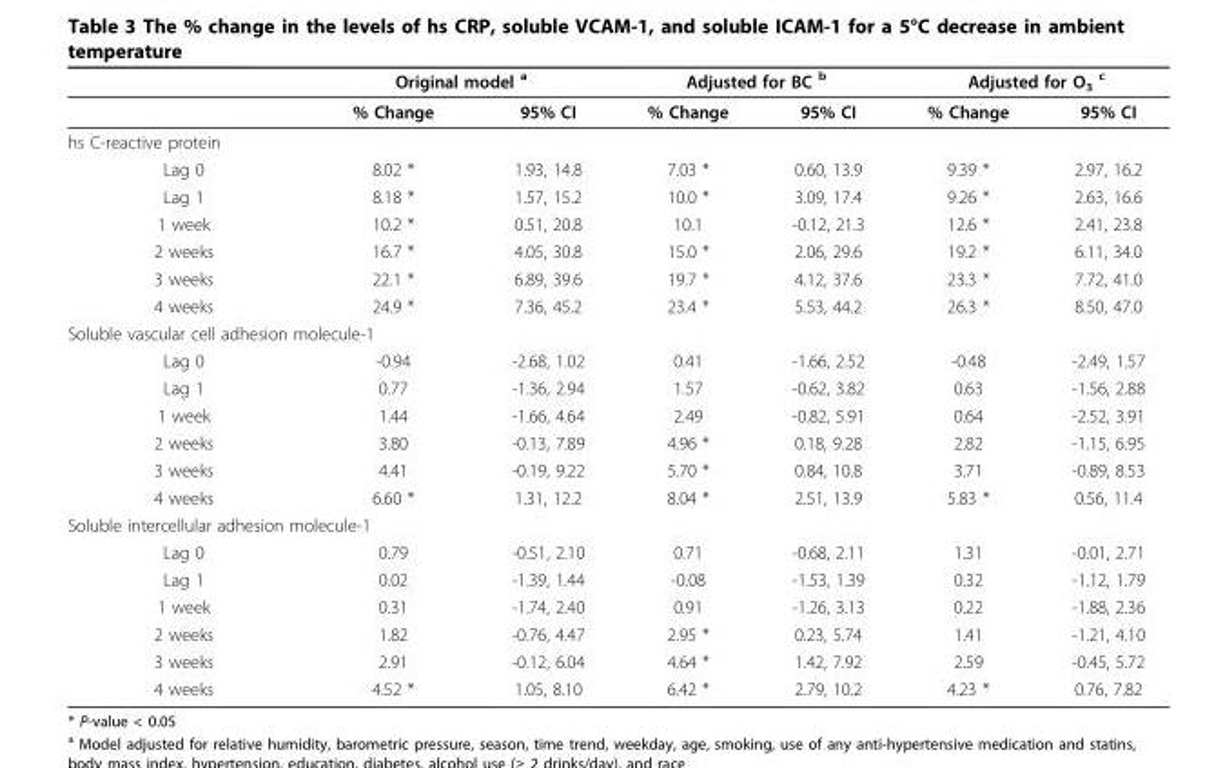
<table><thead><tr><td rowspan="2"></td><td colspan="2">Original model <sup>a</sup></td><td colspan="2">Adjusted for BC <sup>b</sup></td><td colspan="2">Adjusted for O<sub>3</sub> <sup>c</sup></td></tr><tr><td>% Change</td><td>95% CI</td><td>% Change</td><td>95% CI</td><td>% Change</td><td>95% CI</td></tr></thead><tbody><tr><td colspan="7">hs C-reactive protein</td></tr><tr><td>Lag 0</td><td>8.02 *</td><td>1.93, 14.8</td><td>7.03 *</td><td>0.60, 13.9</td><td>9.39 *</td><td>2.97, 16.2</td></tr><tr><td>Lag 1</td><td>8.18 *</td><td>1.57, 15.2</td><td>10.0 *</td><td>3.09, 17.4</td><td>9.26 *</td><td>2.63, 16.6</td></tr><tr><td>1 week</td><td>10.2 *</td><td>0.51, 20.8</td><td>10.1</td><td>-0.12, 21.3</td><td>12.6 *</td><td>2.41, 23.8</td></tr><tr><td>2 weeks</td><td>16.7 *</td><td>4.05, 30.8</td><td>15.0 *</td><td>2.06, 29.6</td><td>19.2 *</td><td>6.11, 34.0</td></tr><tr><td>3 weeks</td><td>22.1 *</td><td>6.89, 39.6</td><td>19.7 *</td><td>4.12, 37.6</td><td>23.3 *</td><td>7.72, 41.0</td></tr><tr><td>4 weeks</td><td>24.9 *</td><td>7.36, 45.2</td><td>23.4 *</td><td>5.53, 44.2</td><td>26.3 *</td><td>8.50, 47.0</td></tr><tr><td colspan="7">Soluble vascular cell adhesion molecule-1</td></tr><tr><td>Lag 0</td><td>-0.94</td><td>-2.68, 1.02</td><td>0.41</td><td>-1.66, 2.52</td><td>-0.48</td><td>-2.49, 1.57</td></tr><tr><td>Lag 1</td><td>0.77</td><td>-1.36, 2.94</td><td>1.57</td><td>-0.62, 3.82</td><td>0.63</td><td>-1.56, 2.88</td></tr><tr><td>1 week</td><td>1.44</td><td>-1.66, 4.64</td><td>2.49</td><td>-0.82, 5.91</td><td>0.64</td><td>-2.52, 3.91</td></tr><tr><td>2 weeks</td><td>3.80</td><td>-0.13, 7.89</td><td>4.96 *</td><td>0.18, 9.28</td><td>2.82</td><td>-1.15, 6.95</td></tr><tr><td>3 weeks</td><td>4.41</td><td>-0.19, 9.22</td><td>5.70 *</td><td>0.84, 10.8</td><td>3.71</td><td>-0.89, 8.53</td></tr><tr><td>4 weeks</td><td>6.60 *</td><td>1.31, 12.2</td><td>8.04 *</td><td>2.51, 13.9</td><td>5.83 *</td><td>0.56, 11.4</td></tr><tr><td colspan="7">Soluble intercellular adhesion molecule-1</td></tr><tr><td>Lag 0</td><td>0.79</td><td>-0.51, 2.10</td><td>0.71</td><td>-0.68, 2.11</td><td>1.31</td><td>-0.01, 2.71</td></tr><tr><td>Lag 1</td><td>0.02</td><td>-1.39, 1.44</td><td>-0.08</td><td>-1.53, 1.39</td><td>0.32</td><td>-1.12, 1.79</td></tr><tr><td>1 week</td><td>0.31</td><td>-1.74, 2.40</td><td>0.91</td><td>-1.26, 3.13</td><td>0.22</td><td>-1.88, 2.36</td></tr><tr><td>2 weeks</td><td>1.82</td><td>-0.76, 4.47</td><td>2.95 *</td><td>0.23, 5.74</td><td>1.41</td><td>-1.21, 4.10</td></tr><tr><td>3 weeks</td><td>2.91</td><td>-0.12, 6.04</td><td>4.64 *</td><td>1.42, 7.92</td><td>2.59</td><td>-0.45, 5.72</td></tr><tr><td>4 weeks</td><td>4.52 *</td><td>1.05, 8.10</td><td>6.42 *</td><td>2.79, 10.2</td><td>4.23 *</td><td>0.76, 7.82</td></tr></tbody></table>